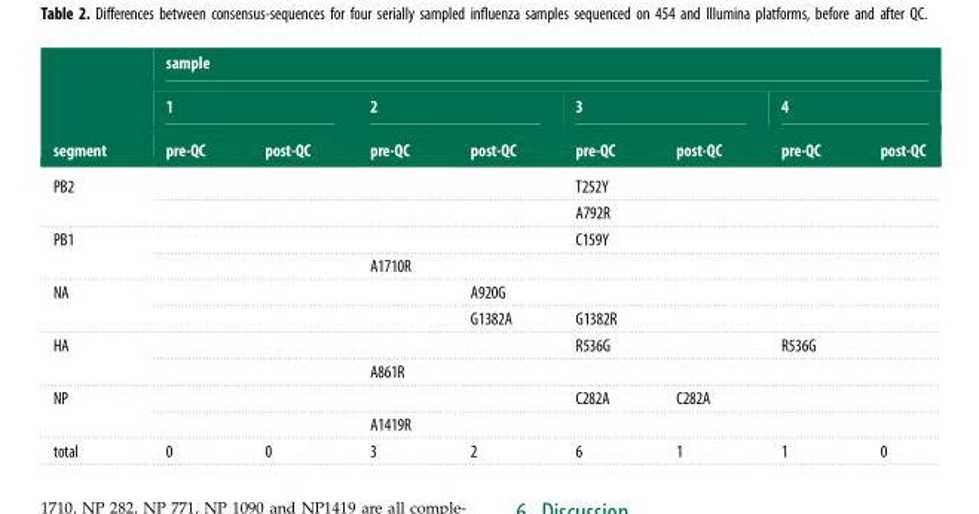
<table><thead><tr><td rowspan="3">segment</td><td colspan="8">sample</td></tr><tr><td colspan="2">1</td><td colspan="2">2</td><td colspan="2">3</td><td colspan="2">4</td></tr><tr><td>pre-QC</td><td>post-QC</td><td>pre-QC</td><td>post-QC</td><td>pre-QC</td><td>post-QC</td><td>pre-QC</td><td>post-QC</td></tr></thead><tbody><tr><td rowspan="2">PB2</td><td></td><td></td><td></td><td></td><td>T252Y</td><td></td><td></td><td></td></tr><tr><td></td><td></td><td></td><td></td><td>A792R</td><td></td><td></td><td></td></tr><tr><td rowspan="2">PB1</td><td></td><td></td><td></td><td></td><td>C159Y</td><td></td><td></td><td></td></tr><tr><td></td><td></td><td>A1710R</td><td></td><td></td><td></td><td></td><td></td></tr><tr><td rowspan="2">NA</td><td></td><td></td><td></td><td>A920G</td><td></td><td></td><td></td><td></td></tr><tr><td></td><td></td><td></td><td>G1382A</td><td>G1382R</td><td></td><td></td><td></td></tr><tr><td rowspan="2">HA</td><td></td><td></td><td></td><td></td><td>R536G</td><td></td><td>R536G</td><td></td></tr><tr><td></td><td></td><td>A861R</td><td></td><td></td><td></td><td></td><td></td></tr><tr><td rowspan="2">NP</td><td></td><td></td><td></td><td></td><td>C282A</td><td>C282A</td><td></td><td></td></tr><tr><td></td><td></td><td>A1419R</td><td></td><td></td><td></td><td></td><td></td></tr><tr><td>total</td><td>0</td><td>0</td><td>3</td><td>2</td><td>6</td><td>1</td><td>1</td><td>0</td></tr></tbody></table>